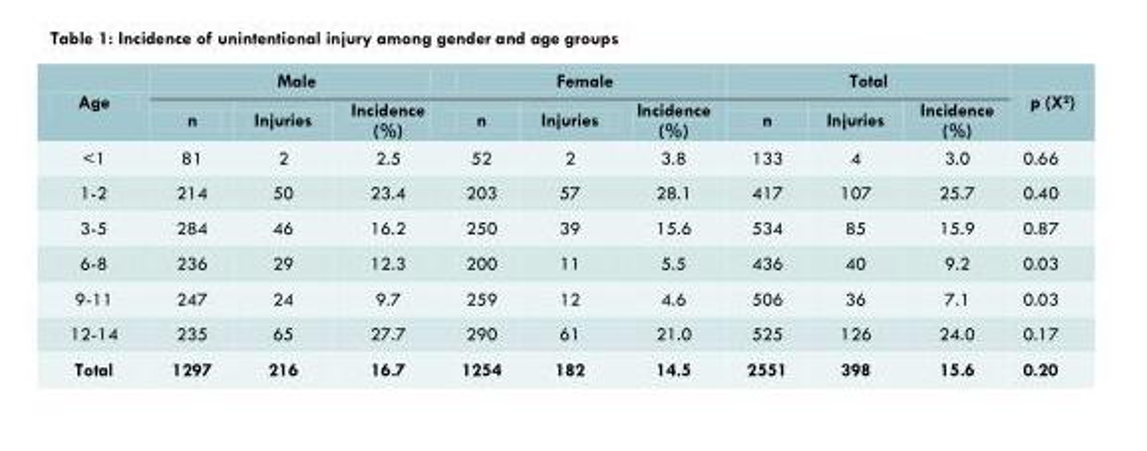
<table><thead><tr><td rowspan="2">Age</td><td colspan="3">Male</td><td colspan="3">Female</td><td colspan="3">Total</td><td rowspan="2">p (X<sup>2</sup>)</td></tr><tr><td>n</td><td>Injuries</td><td>Incidence (%)</td><td>n</td><td>Injuries</td><td>Incidence (%)</td><td>n</td><td>Injuries</td><td>Incidence (%)</td></tr></thead><tbody><tr><td>&lt;1</td><td>81</td><td>2</td><td>2.5</td><td>52</td><td>2</td><td>3.8</td><td>133</td><td>4</td><td>3.0</td><td>0.66</td></tr><tr><td>1-2</td><td>214</td><td>50</td><td>23.4</td><td>203</td><td>57</td><td>28.1</td><td>417</td><td>107</td><td>25.7</td><td>0.40</td></tr><tr><td>3-5</td><td>284</td><td>46</td><td>16.2</td><td>250</td><td>39</td><td>15.6</td><td>534</td><td>85</td><td>15.9</td><td>0.87</td></tr><tr><td>6-8</td><td>236</td><td>29</td><td>12.3</td><td>200</td><td>11</td><td>5.5</td><td>436</td><td>40</td><td>9.2</td><td>0.03</td></tr><tr><td>9-11</td><td>247</td><td>24</td><td>9.7</td><td>259</td><td>12</td><td>4.6</td><td>506</td><td>36</td><td>7.1</td><td>0.03</td></tr><tr><td>12-14</td><td>235</td><td>65</td><td>27.7</td><td>290</td><td>61</td><td>21.0</td><td>525</td><td>126</td><td>24.0</td><td>0.17</td></tr><tr><td>Total</td><td>1297</td><td>216</td><td>16.7</td><td>1254</td><td>182</td><td>14.5</td><td>2551</td><td>398</td><td>15.6</td><td>0.20</td></tr></tbody></table>